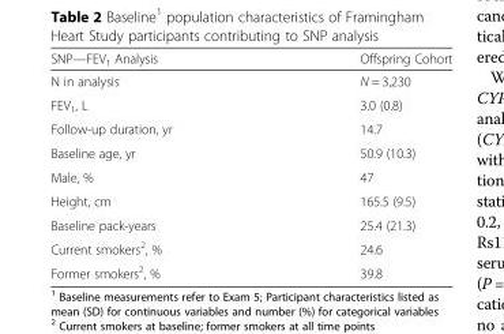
<table><thead><tr><td>SNP—FEV<sub>1</sub> Analysis</td><td>Offspring Cohort</td></tr></thead><tbody><tr><td>N in analysis</td><td>N = 3,230</td></tr><tr><td>FEV<sub>1</sub>, L</td><td>3.0 (0.8)</td></tr><tr><td>Follow-up duration, yr</td><td>14.7</td></tr><tr><td>Baseline age, yr</td><td>50.9 (10.3)</td></tr><tr><td>Male, %</td><td>47</td></tr><tr><td>Height, cm</td><td>165.5 (9.5)</td></tr><tr><td>Baseline pack-years</td><td>25.4 (21.3)</td></tr><tr><td>Current smokers<sup>2</sup>, %</td><td>24.6</td></tr><tr><td>Former smokers<sup>2</sup>, %</td><td>39.8</td></tr></tbody></table>